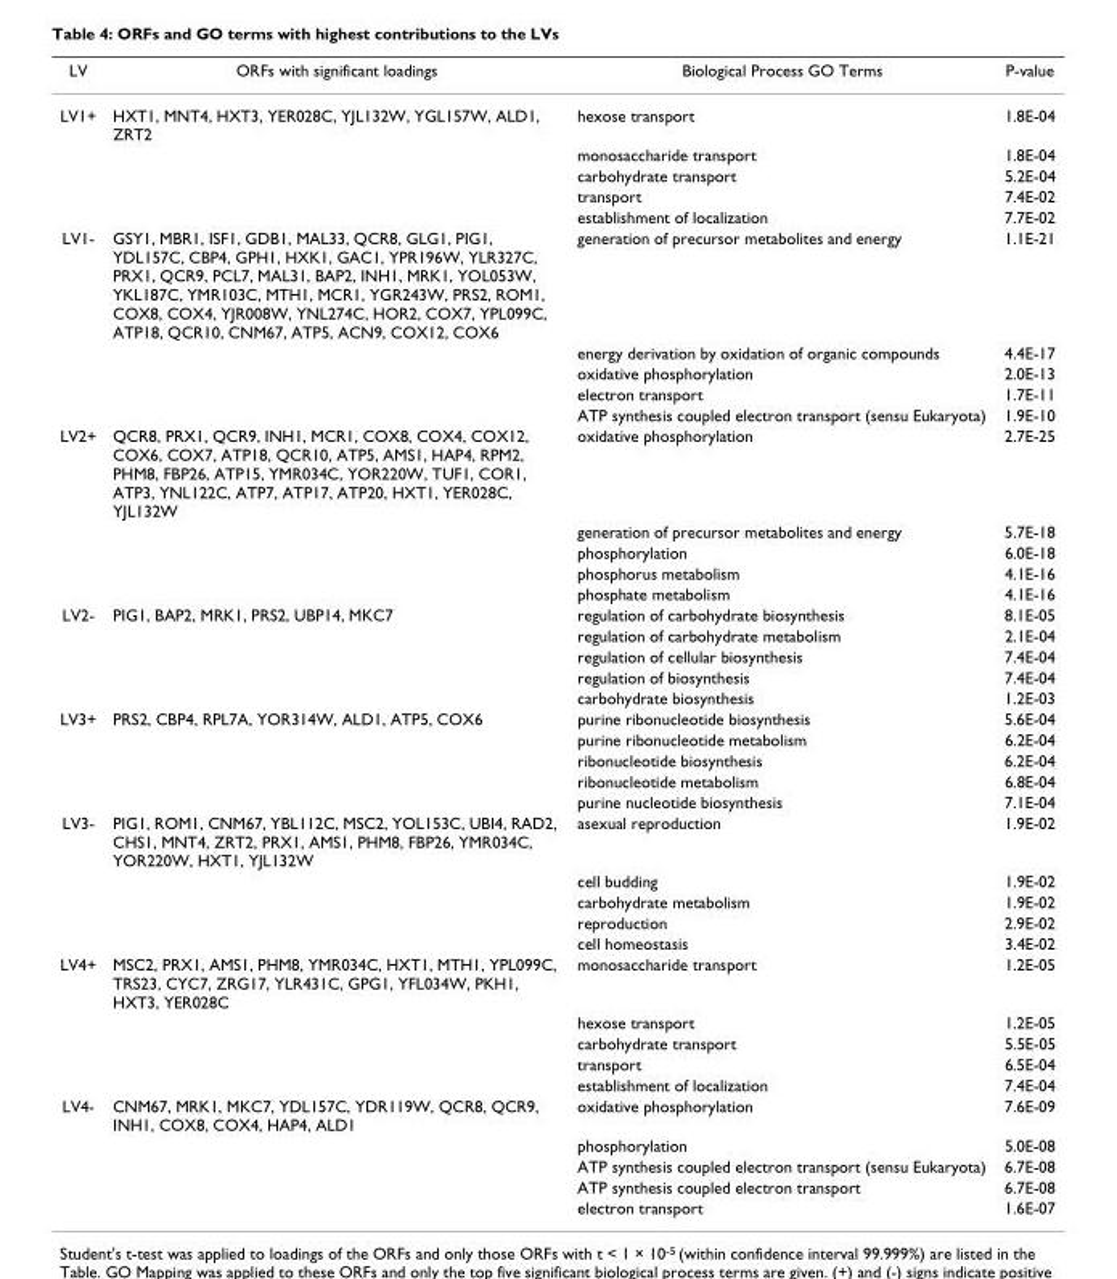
<table><thead><tr><td>LV</td><td>ORFs with significant loadings</td><td>Biological Process GO Terms</td><td>P-value</td></tr></thead><tbody><tr><td rowspan="5">LV1+</td><td>HXT1, MNT4, HXT3, YER028C, YJL132W, YGL157W, ALD1, ZRT2</td><td>hexose transport</td><td>1.8E-04</td></tr><tr><td></td><td>monosaccharide transport</td><td>1.8E-04</td></tr><tr><td></td><td>carbohydrate transport</td><td>5.2E-04</td></tr><tr><td></td><td>transport</td><td>7.4E-02</td></tr><tr><td></td><td>establishment of localization</td><td>7.7E-02</td></tr><tr><td rowspan="5">LV1-</td><td>GSY1, MBR1, ISF1, GDB1, MAL33, QCR8, GLG1, PIG1, YDL157C, CBP4, GPH1, HXK1, GAC1, YPR196W, YLR327C, PRX1, QCR9, PCL7, MAL31, BAP2, INH1, MRK1, YOL053W, YKL187C, YMR103C, MTH1, MCR1, YGR243W, PRS2, ROM1, COX8, COX4, YJR008W, YNL274C, HOR2, COX7, YPL099C, ATP18, QCR10, CNM67, ATP5, ACN9, COX12, COX6</td><td>generation of precursor metabolites and energy</td><td>1.1E-21</td></tr><tr><td></td><td>energy derivation by oxidation of organic compounds</td><td>4.4E-17</td></tr><tr><td></td><td>oxidative phosphorylation</td><td>2.0E-13</td></tr><tr><td></td><td>electron transport</td><td>1.7E-11</td></tr><tr><td></td><td>ATP synthesis coupled electron transport (sensu Eukaryota)</td><td>1.9E-10</td></tr><tr><td rowspan="5">LV2+</td><td>QCR8, PRX1, QCR9, INH1, MCR1, COX8, COX4, COX12, COX6, COX7, ATP18, QCR10, ATP5, AMS1, HAP4, RPM2, PHM8, FBP26, ATP15, YMR034C, YOR220W, TUF1, COR1, ATP3, YNL122C, ATP7, ATP17, ATP20, HXT1, YER028C, YJL132W</td><td>oxidative phosphorylation</td><td>2.7E-25</td></tr><tr><td></td><td>generation of precursor metabolites and energy</td><td>5.7E-18</td></tr><tr><td></td><td>phosphorylation</td><td>6.0E-18</td></tr><tr><td></td><td>phosphorus metabolism</td><td>4.1E-16</td></tr><tr><td></td><td>phosphate metabolism</td><td>4.1E-16</td></tr><tr><td rowspan="5">LV2-</td><td>PIG1, BAP2, MRK1, PRS2, UBP14, MKC7</td><td>regulation of carbohydrate biosynthesis</td><td>8.1E-05</td></tr><tr><td></td><td>regulation of carbohydrate metabolism</td><td>2.1E-04</td></tr><tr><td></td><td>regulation of cellular biosynthesis</td><td>7.4E-04</td></tr><tr><td></td><td>regulation of biosynthesis</td><td>7.4E-04</td></tr><tr><td></td><td>carbohydrate biosynthesis</td><td>1.2E-03</td></tr><tr><td rowspan="5">LV3+</td><td>PRS2, CBP4, RPL7A, YOR314W, ALD1, ATP5, COX6</td><td>purine ribonucleotide biosynthesis</td><td>5.6E-04</td></tr><tr><td></td><td>purine ribonucleotide metabolism</td><td>6.2E-04</td></tr><tr><td></td><td>ribonucleotide biosynthesis</td><td>6.2E-04</td></tr><tr><td></td><td>ribonucleotide metabolism</td><td>6.8E-04</td></tr><tr><td></td><td>purine nucleotide biosynthesis</td><td>7.1E-04</td></tr><tr><td rowspan="5">LV3-</td><td>PIG1, ROM1, CNM67, YBL112C, MSC2, YOL153C, UBI4, RAD2, CHS1, MNT4, ZRT2, PRX1, AMS1, PHM8, FBP26, YMR034C, YOR220W, HXT1, YJL132W</td><td>asexual reproduction</td><td>1.9E-02</td></tr><tr><td></td><td>cell budding</td><td>1.9E-02</td></tr><tr><td></td><td>carbohydrate metabolism</td><td>1.9E-02</td></tr><tr><td></td><td>reproduction</td><td>2.9E-02</td></tr><tr><td></td><td>cell homeostasis</td><td>3.4E-02</td></tr><tr><td rowspan="5">LV4+</td><td>MSC2, PRX1, AMS1, PHM8, YMR034C, HXT1, MTH1, YPL099C, TRS23, CYC7, ZRG17, YLR431C, GPG1, YFL034W, PKH1, HXT3, YER028C</td><td>monosaccharide transport</td><td>1.2E-05</td></tr><tr><td></td><td>hexose transport</td><td>1.2E-05</td></tr><tr><td></td><td>carbohydrate transport</td><td>5.5E-05</td></tr><tr><td></td><td>transport</td><td>6.5E-04</td></tr><tr><td></td><td>establishment of localization</td><td>7.4E-04</td></tr><tr><td rowspan="5">LV4-</td><td>CNM67, MRK1, MKC7, YDL157C, YDR119W, QCR8, QCR9, INH1, COX8, COX4, HAP4, ALD1</td><td>oxidative phosphorylation</td><td>7.6E-09</td></tr><tr><td></td><td>phosphorylation</td><td>5.0E-08</td></tr><tr><td></td><td>ATP synthesis coupled electron transport (sensu Eukaryota)</td><td>6.7E-08</td></tr><tr><td></td><td>ATP synthesis coupled electron transport</td><td>6.7E-08</td></tr><tr><td></td><td>electron transport</td><td>1.6E-07</td></tr></tbody></table>